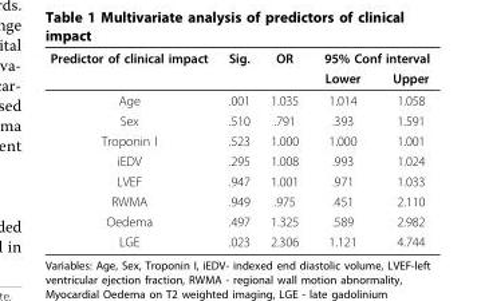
<table><thead><tr><td rowspan="2">Predictor of clinical impact</td><td rowspan="2">Sig.</td><td rowspan="2">OR</td><td colspan="2">95% Conf interval</td></tr><tr><td>Lower</td><td>Upper</td></tr></thead><tbody><tr><td>Age</td><td>.001</td><td>1.035</td><td>1.014</td><td>1.058</td></tr><tr><td>Sex</td><td>.510</td><td>.791</td><td>.393</td><td>1.591</td></tr><tr><td>Troponin I</td><td>.523</td><td>1.000</td><td>1.000</td><td>1.001</td></tr><tr><td>iEDV</td><td>.295</td><td>1.008</td><td>.993</td><td>1.024</td></tr><tr><td>LVEF</td><td>.947</td><td>1.001</td><td>.971</td><td>1.033</td></tr><tr><td>RWMA</td><td>.949</td><td>.975</td><td>.451</td><td>2.110</td></tr><tr><td>Oedema</td><td>.497</td><td>1.325</td><td>.589</td><td>2.982</td></tr><tr><td>LGE</td><td>.023</td><td>2.306</td><td>1.121</td><td>4.744</td></tr></tbody></table>